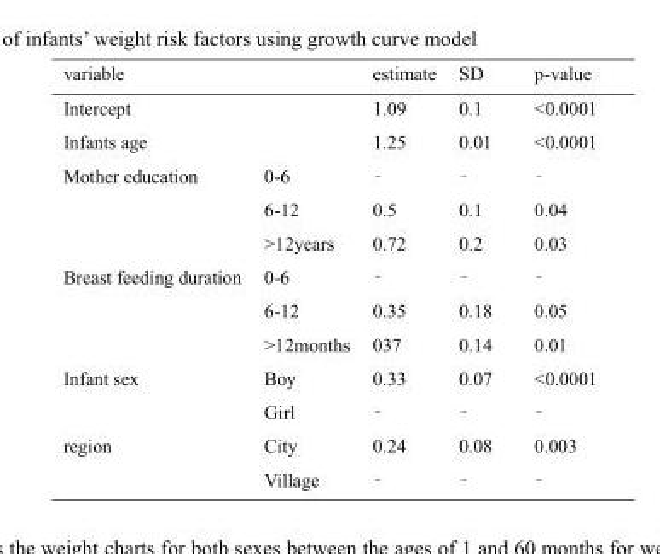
<table><thead><tr><td colspan="2">variable</td><td rowspan="2">estimate 1.09</td><td rowspan="2">SD 0.1</td><td rowspan="2">p-value &lt;0.0001</td></tr><tr><td>Intercept</td><td></td></tr></thead><tbody><tr><td>Infants age</td><td></td><td>1.25</td><td>0.01</td><td>&lt;0.0001</td></tr><tr><td rowspan="3">Mother education</td><td>0-6</td><td>‑</td><td>‑</td><td>‑</td></tr><tr><td>6-12</td><td>0.5</td><td>0.1</td><td>0.04</td></tr><tr><td>&gt;12years</td><td>0.72</td><td>0.2</td><td>0.03</td></tr><tr><td rowspan="3">Breast feeding duration</td><td>0-6</td><td>‑</td><td>‑</td><td>‑</td></tr><tr><td>6-12</td><td>0.35</td><td>0.18</td><td>0.05</td></tr><tr><td>&gt;12months</td><td>037</td><td>0.14</td><td>0.01</td></tr><tr><td rowspan="2">Infant sex</td><td>Boy</td><td>0.33</td><td>0.07</td><td>&lt;0.0001</td></tr><tr><td>Girl</td><td>‑</td><td>‑</td><td>‑</td></tr><tr><td rowspan="2">region</td><td>City</td><td>0.24</td><td>0.08</td><td>0.003</td></tr><tr><td>Village</td><td>‑</td><td>‑</td><td>‑</td></tr></tbody></table>